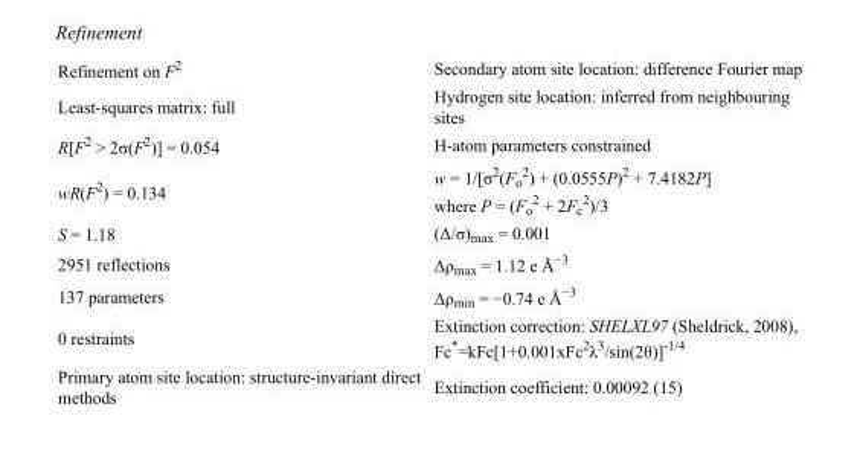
<table><tbody><tr><td>Refinement on F<sup>2</sup></td><td>Secondary atom site location: difference Fourier map</td></tr><tr><td>Least-squares matrix: full</td><td>Hydrogen site location: inferred from neighbouring sites</td></tr><tr><td>R[F<sup>2</sup> &gt; 2σ(F<sup>2</sup>)] = 0.054</td><td>H-atom parameters constrained</td></tr><tr><td>wR(F<sup>2</sup>) = 0.134</td><td>w = 1/[σ<sup>2</sup>(F<sub>o</sub> <sup>2</sup>) + (0.0555P)<sup>2</sup> + 7.4182P] where P = (F<sub>o</sub> <sup>2</sup> + 2F<sub>c</sub> <sup>2</sup>)/3</td></tr><tr><td>S = 1.18</td><td>(Δ/σ)<sub>max</sub> = 0.001</td></tr><tr><td>2951 reflections</td><td>Δρ<sub>max</sub> = 1.12 e Å<sup>−3</sup></td></tr><tr><td>137 parameters</td><td>Δρ<sub>min</sub> = −0.74 e Å<sup>−3</sup></td></tr><tr><td>0 restraints</td><td>Extinction correction: SHELXL97 (Sheldrick, 2008), Fc*=kFc[1+0.001xFc<sup>2</sup>λ<sup>3</sup>/sin(2θ)]<sup>-1/4</sup></td></tr><tr><td>Primary atom site location: structure-invariant direct methods</td><td>Extinction coefficient: 0.00092 (15)</td></tr></tbody></table>